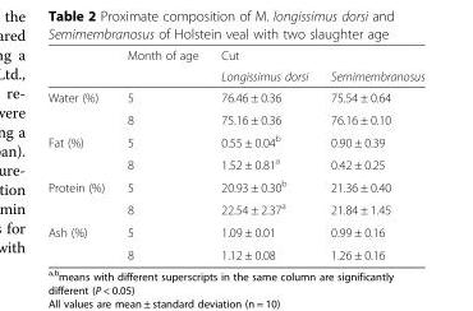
<table><thead><tr><td rowspan="2"></td><td rowspan="2">Month of age</td><td colspan="2">Cut</td></tr><tr><td>Longissimus dorsi</td><td>Semimembranosus</td></tr></thead><tbody><tr><td rowspan="2">Water (%)</td><td>5</td><td>76.46 ± 0.36</td><td>75.54 ± 0.64</td></tr><tr><td>8</td><td>75.16 ± 0.36</td><td>76.16 ± 0.10</td></tr><tr><td rowspan="2">Fat (%)</td><td>5</td><td>0.55 ± 0.04<sup>b</sup></td><td>0.90 ± 0.39</td></tr><tr><td>8</td><td>1.52 ± 0.81<sup>a</sup></td><td>0.42 ± 0.25</td></tr><tr><td rowspan="2">Protein (%)</td><td>5</td><td>20.93 ± 0.30<sup>b</sup></td><td>21.36 ± 0.40</td></tr><tr><td>8</td><td>22.54 ± 2.37<sup>a</sup></td><td>21.84 ± 1.45</td></tr><tr><td rowspan="2">Ash (%)</td><td>5</td><td>1.09 ± 0.01</td><td>0.99 ± 0.16</td></tr><tr><td>8</td><td>1.12 ± 0.08</td><td>1.26 ± 0.16</td></tr></tbody></table>